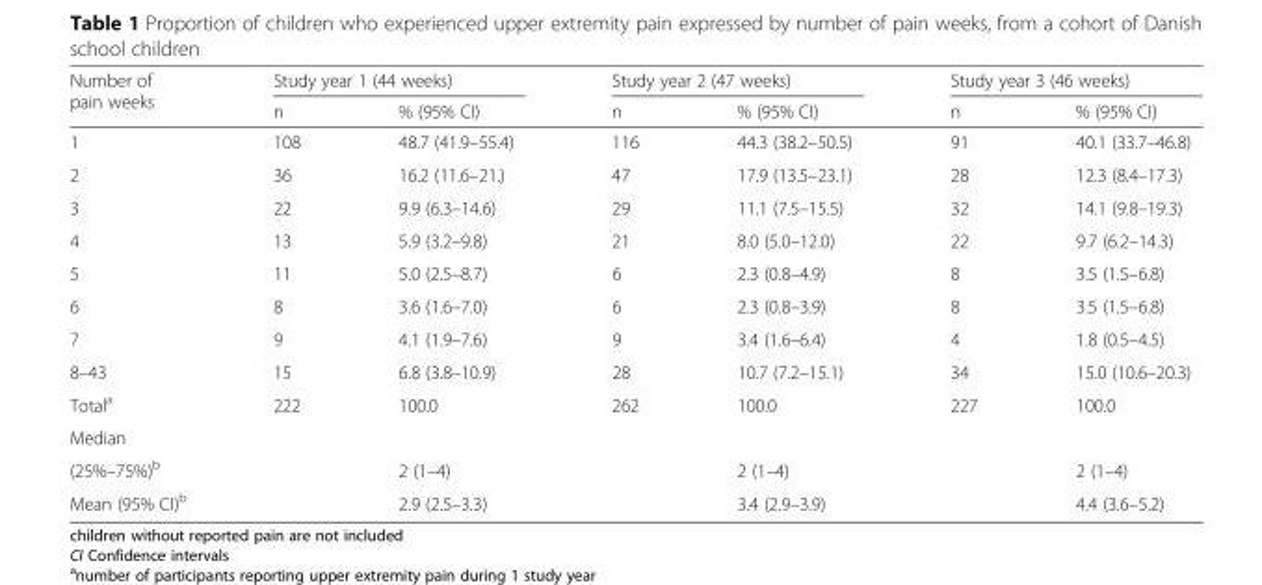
<table><thead><tr><td rowspan="2">Number of pain weeks</td><td colspan="2">Study year 1 (44 weeks)</td><td colspan="2">Study year 2 (47 weeks)</td><td colspan="2">Study year 3 (46 weeks)</td></tr><tr><td>n</td><td>% (95% CI)</td><td>n</td><td>% (95% CI)</td><td>n</td><td>% (95% CI)</td></tr></thead><tbody><tr><td>1</td><td>108</td><td>48.7 (41.9–55.4)</td><td>116</td><td>44.3 (38.2–50.5)</td><td>91</td><td>40.1 (33.7–46.8)</td></tr><tr><td>2</td><td>36</td><td>16.2 (11.6–21.)</td><td>47</td><td>17.9 (13.5–23.1)</td><td>28</td><td>12.3 (8.4–17.3)</td></tr><tr><td>3</td><td>22</td><td>9.9 (6.3–14.6)</td><td>29</td><td>11.1 (7.5–15.5)</td><td>32</td><td>14.1 (9.8–19.3)</td></tr><tr><td>4</td><td>13</td><td>5.9 (3.2–9.8)</td><td>21</td><td>8.0 (5.0–12.0)</td><td>22</td><td>9.7 (6.2–14.3)</td></tr><tr><td>5</td><td>11</td><td>5.0 (2.5–8.7)</td><td>6</td><td>2.3 (0.8–4.9)</td><td>8</td><td>3.5 (1.5–6.8)</td></tr><tr><td>6</td><td>8</td><td>3.6 (1.6–7.0)</td><td>6</td><td>2.3 (0.8–3.9)</td><td>8</td><td>3.5 (1.5–6.8)</td></tr><tr><td>7</td><td>9</td><td>4.1 (1.9–7.6)</td><td>9</td><td>3.4 (1.6–6.4)</td><td>4</td><td>1.8 (0.5–4.5)</td></tr><tr><td>8–43</td><td>15</td><td>6.8 (3.8–10.9)</td><td>28</td><td>10.7 (7.2–15.1)</td><td>34</td><td>15.0 (10.6–20.3)</td></tr><tr><td>Total<sup>a</sup></td><td>222</td><td>100.0</td><td>262</td><td>100.0</td><td>227</td><td>100.0</td></tr><tr><td colspan="7">Median</td></tr><tr><td>(25%–75%)<sup>b</sup></td><td></td><td>2 (1–4)</td><td></td><td>2 (1–4)</td><td></td><td>2 (1–4)</td></tr><tr><td>Mean (95% CI)<sup>b</sup></td><td></td><td>2.9 (2.5–3.3)</td><td></td><td>3.4 (2.9–3.9)</td><td></td><td>4.4 (3.6–5.2)</td></tr></tbody></table>